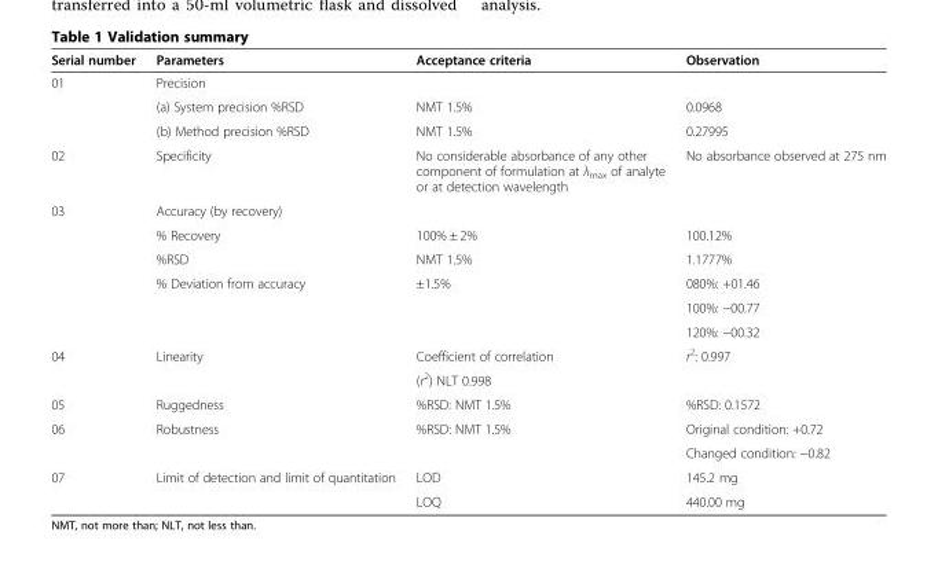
<table><thead><tr><td>Serial number</td><td>Parameters</td><td>Acceptance criteria</td><td>Observation</td></tr></thead><tbody><tr><td rowspan="3">01</td><td>Precision</td><td></td><td></td></tr><tr><td>(a) System precision %RSD</td><td>NMT 1.5%</td><td>0.0968</td></tr><tr><td>(b) Method precision %RSD</td><td>NMT 1.5%</td><td>0.27995</td></tr><tr><td>02</td><td>Specificity</td><td>No considerable absorbance of any other component of formulation at λ<sub>max</sub> of analyte or at detection wavelength</td><td>No absorbance observed at 275 nm</td></tr><tr><td rowspan="6">03</td><td colspan="2">Accuracy (by recovery)</td><td></td></tr><tr><td>% Recovery</td><td>100% ± 2%</td><td>100.12%</td></tr><tr><td>%RSD</td><td>NMT 1.5%</td><td>1.1777%</td></tr><tr><td rowspan="3">% Deviation from accuracy</td><td>±1.5%</td><td>080%: +01.46</td></tr><tr><td></td><td>100%: −00.77</td></tr><tr><td></td><td>120%: −00.32</td></tr><tr><td rowspan="2">04</td><td rowspan="2">Linearity</td><td>Coefficient of correlation</td><td rowspan="2">r<sup>2</sup>: 0.997</td></tr><tr><td>(r<sup>2</sup>) NLT 0.998</td></tr><tr><td>05</td><td>Ruggedness</td><td>%RSD: NMT 1.5%</td><td>%RSD: 0.1572</td></tr><tr><td rowspan="2">06</td><td rowspan="2">Robustness</td><td rowspan="2">%RSD: NMT 1.5%</td><td>Original condition: +0.72</td></tr><tr><td>Changed condition: −0.82</td></tr><tr><td rowspan="2">07</td><td rowspan="2">Limit of detection and limit of quantitation</td><td>LOD</td><td>145.2 mg</td></tr><tr><td>LOQ</td><td>440.00 mg</td></tr></tbody></table>